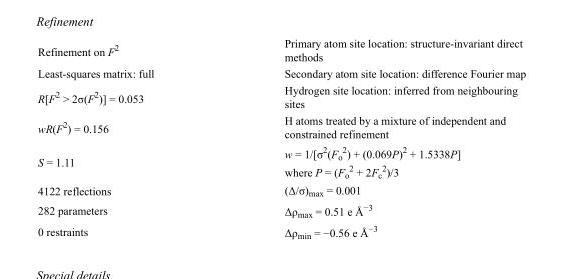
<table><tbody><tr><td>Refinement on F<sup>2</sup></td><td>Primary atom site location: structure-invariant direct methods</td></tr><tr><td>Least-squares matrix: full</td><td>Secondary atom site location: difference Fourier map</td></tr><tr><td>R[F<sup>2</sup> &gt; 2σ(F<sup>2</sup>)] = 0.053</td><td>Hydrogen site location: inferred from neighbouring sites</td></tr><tr><td>wR(F<sup>2</sup>) = 0.156</td><td>H atoms treated by a mixture of independent and constrained refinement</td></tr><tr><td>S = 1.11</td><td>w = 1/[σ<sup>2</sup>(F<sub>o</sub> <sup>2</sup>) + (0.069P)<sup>2</sup> + 1.5338P] where P = (F<sub>o</sub> <sup>2</sup> + 2F<sub>c</sub> <sup>2</sup>)/3</td></tr><tr><td>4122 reflections</td><td>(Δ/σ)<sub>max</sub> = 0.001</td></tr><tr><td>282 parameters</td><td>Δρ<sub>max</sub> = 0.51 e Å<sup>−3</sup></td></tr><tr><td>0 restraints</td><td>Δρ<sub>min</sub> = −0.56 e Å<sup>−3</sup></td></tr></tbody></table>